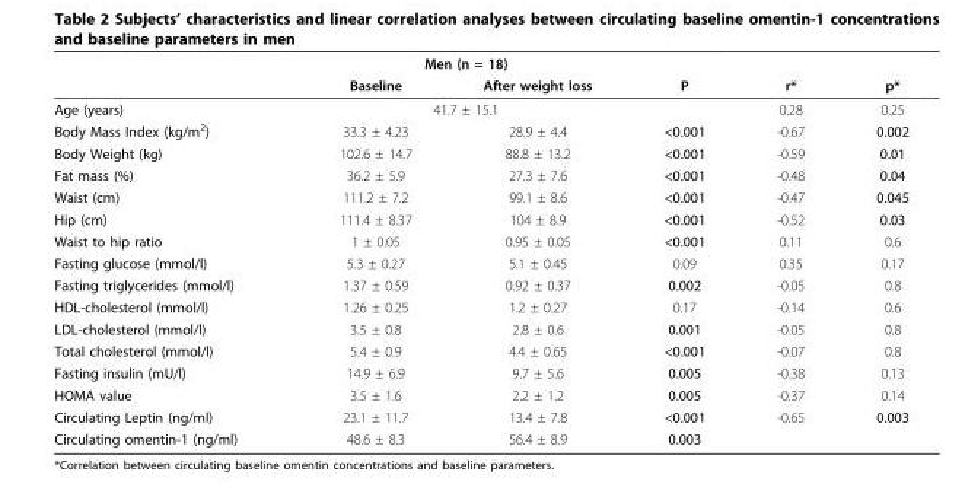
<table><thead><tr><td rowspan="2"></td><td colspan="2">Men (n = 18)</td><td rowspan="2">P</td><td rowspan="2">r*</td><td rowspan="2">p*</td></tr><tr><td>Baseline</td><td>After weight loss</td></tr></thead><tbody><tr><td>Age (years)</td><td colspan="2">41.7 ± 15.1</td><td></td><td>0.28</td><td>0.25</td></tr><tr><td>Body Mass Index (kg/m<sup>2</sup>)</td><td>33.3 ± 4.23</td><td>28.9 ± 4.4</td><td>&lt;0.001</td><td>-0.67</td><td>0.002</td></tr><tr><td>Body Weight (kg)</td><td>102.6 ± 14.7</td><td>88.8 ± 13.2</td><td>&lt;0.001</td><td>-0.59</td><td>0.01</td></tr><tr><td>Fat mass (%)</td><td>36.2 ± 5.9</td><td>27.3 ± 7.6</td><td>&lt;0.001</td><td>-0.48</td><td>0.04</td></tr><tr><td>Waist (cm)</td><td>111.2 ± 7.2</td><td>99.1 ± 8.6</td><td>&lt;0.001</td><td>-0.47</td><td>0.045</td></tr><tr><td>Hip (cm)</td><td>111.4 ± 8.37</td><td>104 ± 8.9</td><td>&lt;0.001</td><td>-0.52</td><td>0.03</td></tr><tr><td>Waist to hip ratio</td><td>1 ± 0.05</td><td>0.95 ± 0.05</td><td>&lt;0.001</td><td>0.11</td><td>0.6</td></tr><tr><td>Fasting glucose (mmol/l)</td><td>5.3 ± 0.27</td><td>5.1 ± 0.45</td><td>0.09</td><td>0.35</td><td>0.17</td></tr><tr><td>Fasting triglycerides (mmol/l)</td><td>1.37 ± 0.59</td><td>0.92 ± 0.37</td><td>0.002</td><td>-0.05</td><td>0.8</td></tr><tr><td>HDL-cholesterol (mmol/l)</td><td>1.26 ± 0.25</td><td>1.2 ± 0.27</td><td>0.17</td><td>-0.14</td><td>0.6</td></tr><tr><td>LDL-cholesterol (mmol/l)</td><td>3.5 ± 0.8</td><td>2.8 ± 0.6</td><td>0.001</td><td>-0.05</td><td>0.8</td></tr><tr><td>Total cholesterol (mmol/l)</td><td>5.4 ± 0.9</td><td>4.4 ± 0.65</td><td>&lt;0.001</td><td>-0.07</td><td>0.8</td></tr><tr><td>Fasting insulin (mU/l)</td><td>14.9 ± 6.9</td><td>9.7 ± 5.6</td><td>0.005</td><td>-0.38</td><td>0.13</td></tr><tr><td>HOMA value</td><td>3.5 ± 1.6</td><td>2.2 ± 1.2</td><td>0.005</td><td>-0.37</td><td>0.14</td></tr><tr><td>Circulating Leptin (ng/ml)</td><td>23.1 ± 11.7</td><td>13.4 ± 7.8</td><td>&lt;0.001</td><td>-0.65</td><td>0.003</td></tr><tr><td>Circulating omentin-1 (ng/ml)</td><td>48.6 ± 8.3</td><td>56.4 ± 8.9</td><td>0.003</td><td></td><td></td></tr></tbody></table>